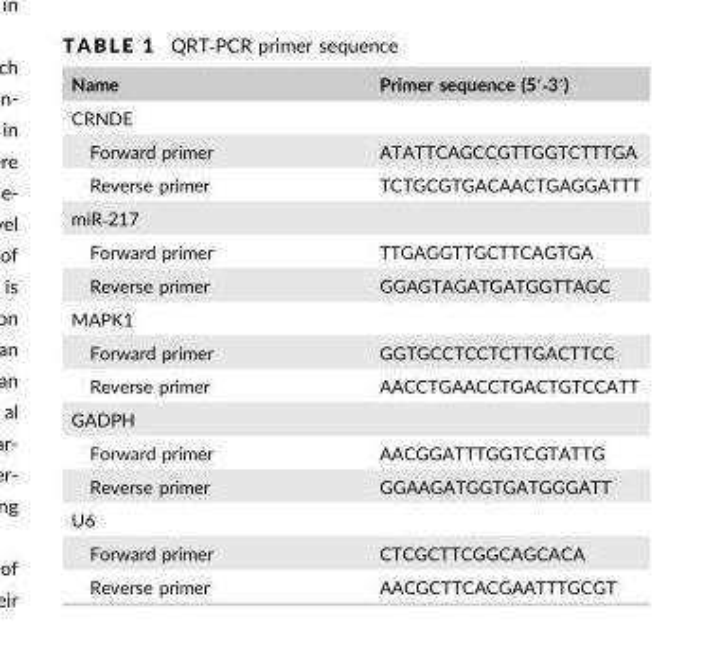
<table><thead><tr><td>Name</td><td>Primer sequence (5′‐3′)</td></tr></thead><tbody><tr><td colspan="2">CRNDE</td></tr><tr><td>Forward primer</td><td>ATATTCAGCCGTTGGTCTTTGA</td></tr><tr><td>Reverse primer</td><td>TCTGCGTGACAACTGAGGATTT</td></tr><tr><td colspan="2">miR‐217</td></tr><tr><td>Forward primer</td><td>TTGAGGTTGCTTCAGTGA</td></tr><tr><td>Reverse primer</td><td>GGAGTAGATGATGGTTAGC</td></tr><tr><td colspan="2">MAPK1</td></tr><tr><td>Forward primer</td><td>GGTGCCTCCTCTTGACTTCC</td></tr><tr><td>Reverse primer</td><td>AACCTGAACCTGACTGTCCATT</td></tr><tr><td colspan="2">GADPH</td></tr><tr><td>Forward primer</td><td>AACGGATTTGGTCGTATTG</td></tr><tr><td>Reverse primer</td><td>GGAAGATGGTGATGGGATT</td></tr><tr><td colspan="2">U6</td></tr><tr><td>Forward primer</td><td>CTCGCTTCGGCAGCACA</td></tr><tr><td>Reverse primer</td><td>AACGCTTCACGAATTTGCGT</td></tr></tbody></table>